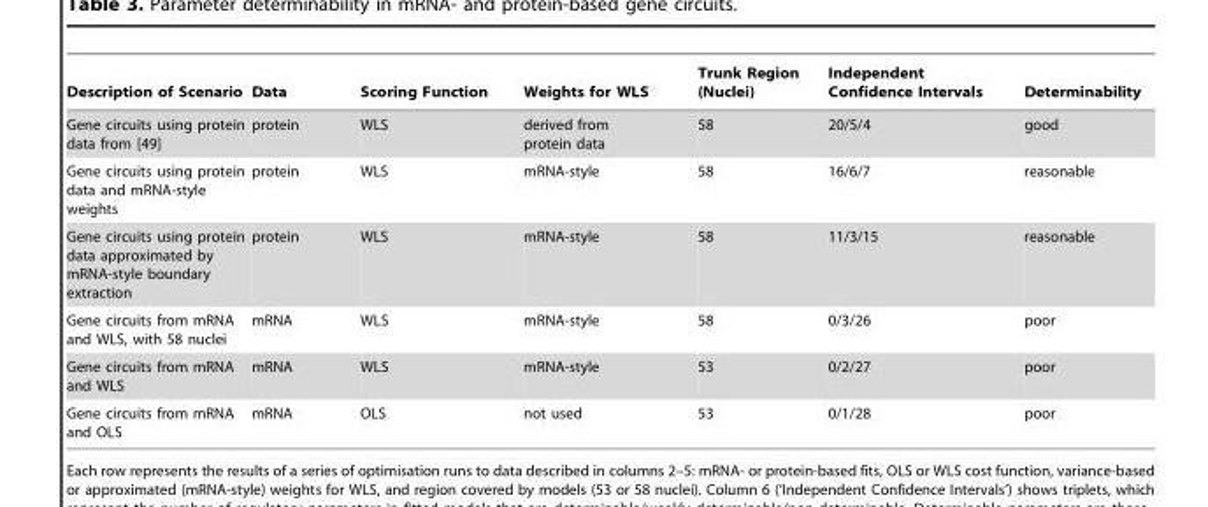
<table><thead><tr><td>Description of Scenario</td><td>Data</td><td>Scoring Function</td><td>Weights for WLS</td><td>Trunk Region (Nuclei)</td><td>Independent Confidence Intervals</td><td>Determinability</td></tr></thead><tbody><tr><td>Gene circuits using protein data from [49]</td><td>protein</td><td>WLS</td><td>derived from protein data</td><td>58</td><td>20/5/4</td><td>good</td></tr><tr><td>Gene circuits using protein data and mRNA-style weights</td><td>protein</td><td>WLS</td><td>mRNA-style</td><td>58</td><td>16/6/7</td><td>reasonable</td></tr><tr><td>Gene circuits using protein data approximated by mRNA-style boundary extraction</td><td>protein</td><td>WLS</td><td>mRNA-style</td><td>58</td><td>11/3/15</td><td>reasonable</td></tr><tr><td>Gene circuits from mRNA and WLS, with 58 nuclei</td><td>mRNA</td><td>WLS</td><td>mRNA-style</td><td>58</td><td>0/3/26</td><td>poor</td></tr><tr><td>Gene circuits from mRNA and WLS</td><td>mRNA</td><td>WLS</td><td>mRNA-style</td><td>53</td><td>0/2/27</td><td>poor</td></tr><tr><td>Gene circuits from mRNA and OLS</td><td>mRNA</td><td>OLS</td><td>not used</td><td>53</td><td>0/1/28</td><td>poor</td></tr></tbody></table>